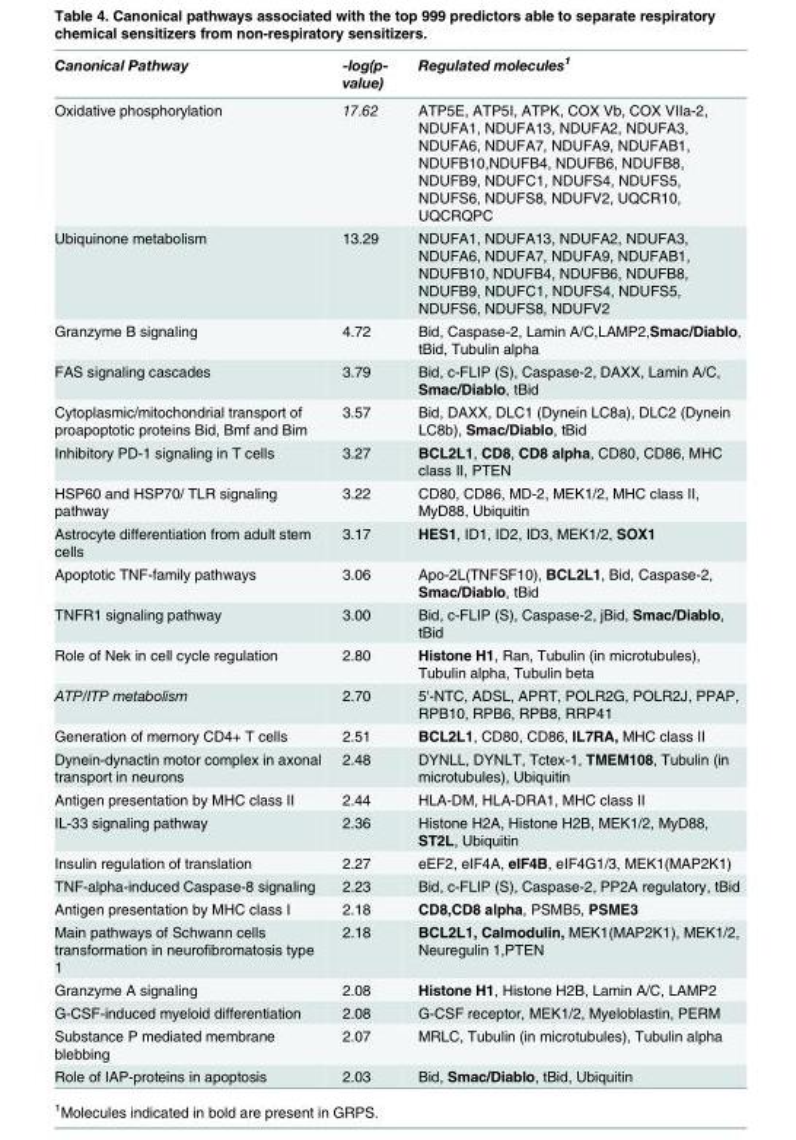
<table><thead><tr><td>Canonical Pathway</td><td>-log(p- value)</td><td>Regulated molecules<sup>1</sup></td></tr></thead><tbody><tr><td>Oxidative phosphorylation</td><td>17.62</td><td>ATP5E, ATP5I, ATPK, COX Vb, COX VIIa-2, NDUFA1, NDUFA13, NDUFA2, NDUFA3, NDUFA6, NDUFA7, NDUFA9, NDUFAB1, NDUFB10,NDUFB4, NDUFB6, NDUFB8, NDUFB9, NDUFC1, NDUFS4, NDUFS5, NDUFS6, NDUFS8, NDUFV2, UQCR10, UQCRQPC</td></tr><tr><td>Ubiquinone metabolism</td><td>13.29</td><td>NDUFA1, NDUFA13, NDUFA2, NDUFA3, NDUFA6, NDUFA7, NDUFA9, NDUFAB1, NDUFB10, NDUFB4, NDUFB6, NDUFB8, NDUFB9, NDUFC1, NDUFS4, NDUFS5, NDUFS6, NDUFS8, NDUFV2</td></tr><tr><td>Granzyme B signaling</td><td>4.72</td><td>Bid, Caspase-2, Lamin A/C,LAMP2,Smac/Diablo, tBid, Tubulin alpha</td></tr><tr><td>FAS signaling cascades</td><td>3.79</td><td>Bid, c-FLIP (S), Caspase-2, DAXX, Lamin A/C, Smac/Diablo, tBid</td></tr><tr><td>Cytoplasmic/mitochondrial transport of proapoptotic proteins Bid, Bmf and Bim</td><td>3.57</td><td>Bid, DAXX, DLC1 (Dynein LC8a), DLC2 (Dynein LC8b), Smac/Diablo, tBid</td></tr><tr><td>Inhibitory PD-1 signaling in T cells</td><td>3.27</td><td>BCL2L1, CD8, CD8 alpha, CD80, CD86, MHC class II, PTEN</td></tr><tr><td>HSP60 and HSP70/ TLR signaling pathway</td><td>3.22</td><td>CD80, CD86, MD-2, MEK1/2, MHC class II, MyD88, Ubiquitin</td></tr><tr><td>Astrocyte differentiation from adult stem cells</td><td>3.17</td><td>HES1, ID1, ID2, ID3, MEK1/2, SOX1</td></tr><tr><td>Apoptotic TNF-family pathways</td><td>3.06</td><td>Apo-2L(TNFSF10), BCL2L1, Bid, Caspase-2, Smac/Diablo, tBid</td></tr><tr><td>TNFR1 signaling pathway</td><td>3.00</td><td>Bid, c-FLIP (S), Caspase-2, jBid, Smac/Diablo, tBid</td></tr><tr><td>Role of Nek in cell cycle regulation</td><td>2.80</td><td>Histone H1, Ran, Tubulin (in microtubules), Tubulin alpha, Tubulin beta</td></tr><tr><td>ATP/ITP metabolism</td><td>2.70</td><td>5&#x27;-NTC, ADSL, APRT, POLR2G, POLR2J, PPAP, RPB10, RPB6, RPB8, RRP41</td></tr><tr><td>Generation of memory CD4+ T cells</td><td>2.51</td><td>BCL2L1, CD80, CD86, IL7RA, MHC class II</td></tr><tr><td>Dynein-dynactin motor complex in axonal transport in neurons</td><td>2.48</td><td>DYNLL, DYNLT, Tctex-1, TMEM108, Tubulin (in microtubules), Ubiquitin</td></tr><tr><td>Antigen presentation by MHC class II</td><td>2.44</td><td>HLA-DM, HLA-DRA1, MHC class II</td></tr><tr><td>IL-33 signaling pathway</td><td>2.36</td><td>Histone H2A, Histone H2B, MEK1/2, MyD88, ST2L, Ubiquitin</td></tr><tr><td>Insulin regulation of translation</td><td>2.27</td><td>eEF2, eIF4A, eIF4B, eIF4G1/3, MEK1(MAP2K1)</td></tr><tr><td>TNF-alpha-induced Caspase-8 signaling</td><td>2.23</td><td>Bid, c-FLIP (S), Caspase-2, PP2A regulatory, tBid</td></tr><tr><td>Antigen presentation by MHC class I</td><td>2.18</td><td>CD8,CD8 alpha, PSMB5, PSME3</td></tr><tr><td>Main pathways of Schwann cells transformation in neurofibromatosis type 1</td><td>2.18</td><td>BCL2L1, Calmodulin, MEK1(MAP2K1), MEK1/2, Neuregulin 1,PTEN</td></tr><tr><td>Granzyme A signaling</td><td>2.08</td><td>Histone H1, Histone H2B, Lamin A/C, LAMP2</td></tr><tr><td>G-CSF-induced myeloid differentiation</td><td>2.08</td><td>G-CSF receptor, MEK1/2, Myeloblastin, PERM</td></tr><tr><td>Substance P mediated membrane blebbing</td><td>2.07</td><td>MRLC, Tubulin (in microtubules), Tubulin alpha</td></tr><tr><td>Role of IAP-proteins in apoptosis</td><td>2.03</td><td>Bid, Smac/Diablo, tBid, Ubiquitin</td></tr></tbody></table>